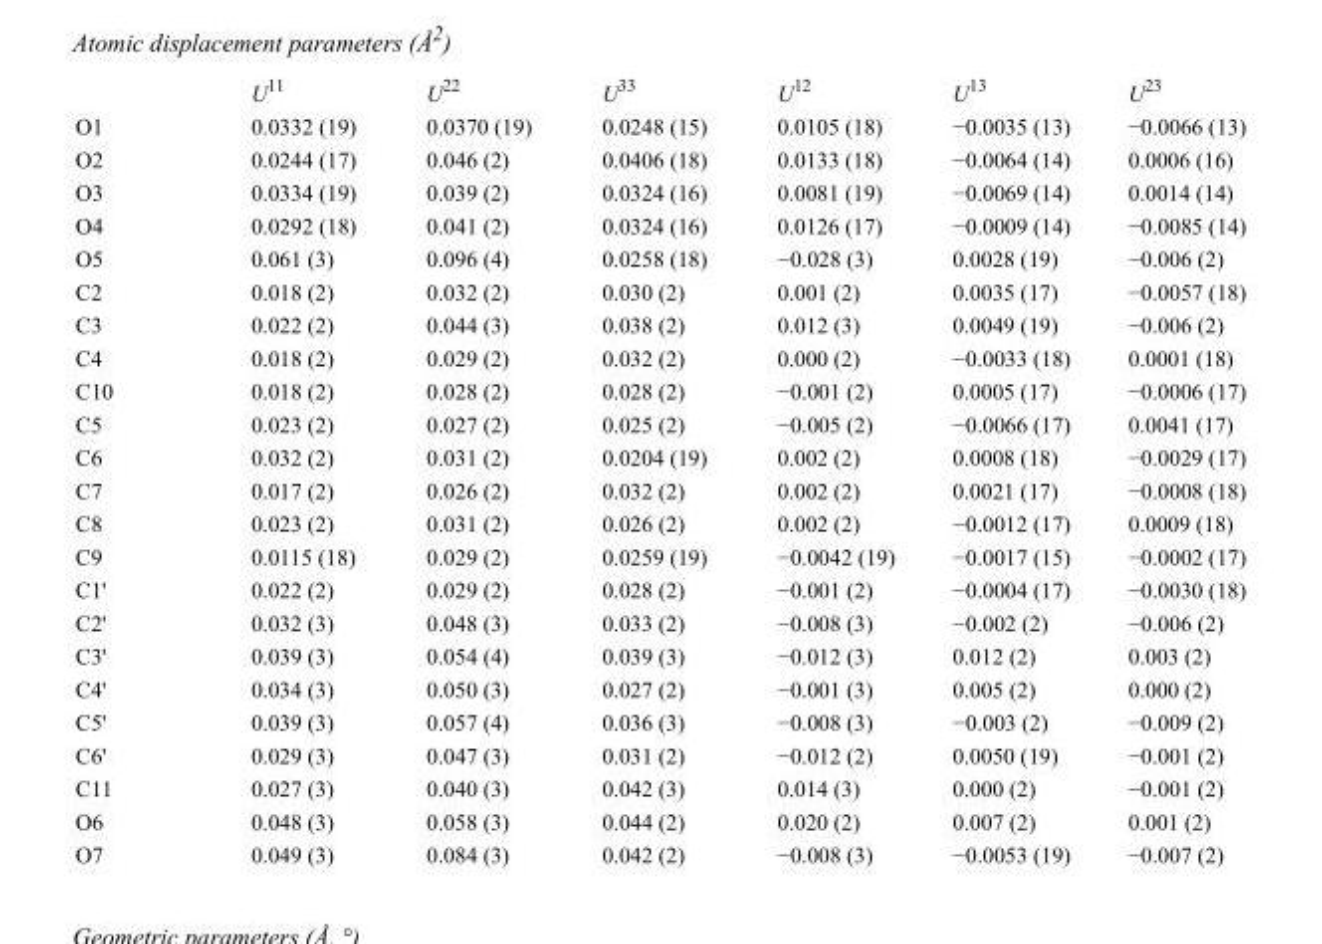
<table><thead><tr><td></td><td>U<sup>11</sup></td><td>U<sup>22</sup></td><td>U<sup>33</sup></td><td>U<sup>12</sup></td><td>U<sup>13</sup></td><td>U<sup>23</sup></td></tr></thead><tbody><tr><td>O1</td><td>0.0332 (19)</td><td>0.0370 (19)</td><td>0.0248 (15)</td><td>0.0105 (18)</td><td>−0.0035 (13)</td><td>−0.0066 (13)</td></tr><tr><td>O2</td><td>0.0244 (17)</td><td>0.046 (2)</td><td>0.0406 (18)</td><td>0.0133 (18)</td><td>−0.0064 (14)</td><td>0.0006 (16)</td></tr><tr><td>O3</td><td>0.0334 (19)</td><td>0.039 (2)</td><td>0.0324 (16)</td><td>0.0081 (19)</td><td>−0.0069 (14)</td><td>0.0014 (14)</td></tr><tr><td>O4</td><td>0.0292 (18)</td><td>0.041 (2)</td><td>0.0324 (16)</td><td>0.0126 (17)</td><td>−0.0009 (14)</td><td>−0.0085 (14)</td></tr><tr><td>O5</td><td>0.061 (3)</td><td>0.096 (4)</td><td>0.0258 (18)</td><td>−0.028 (3)</td><td>0.0028 (19)</td><td>−0.006 (2)</td></tr><tr><td>C2</td><td>0.018 (2)</td><td>0.032 (2)</td><td>0.030 (2)</td><td>0.001 (2)</td><td>0.0035 (17)</td><td>−0.0057 (18)</td></tr><tr><td>C3</td><td>0.022 (2)</td><td>0.044 (3)</td><td>0.038 (2)</td><td>0.012 (3)</td><td>0.0049 (19)</td><td>−0.006 (2)</td></tr><tr><td>C4</td><td>0.018 (2)</td><td>0.029 (2)</td><td>0.032 (2)</td><td>0.000 (2)</td><td>−0.0033 (18)</td><td>0.0001 (18)</td></tr><tr><td>C10</td><td>0.018 (2)</td><td>0.028 (2)</td><td>0.028 (2)</td><td>−0.001 (2)</td><td>0.0005 (17)</td><td>−0.0006 (17)</td></tr><tr><td>C5</td><td>0.023 (2)</td><td>0.027 (2)</td><td>0.025 (2)</td><td>−0.005 (2)</td><td>−0.0066 (17)</td><td>0.0041 (17)</td></tr><tr><td>C6</td><td>0.032 (2)</td><td>0.031 (2)</td><td>0.0204 (19)</td><td>0.002 (2)</td><td>0.0008 (18)</td><td>−0.0029 (17)</td></tr><tr><td>C7</td><td>0.017 (2)</td><td>0.026 (2)</td><td>0.032 (2)</td><td>0.002 (2)</td><td>0.0021 (17)</td><td>−0.0008 (18)</td></tr><tr><td>C8</td><td>0.023 (2)</td><td>0.031 (2)</td><td>0.026 (2)</td><td>0.002 (2)</td><td>−0.0012 (17)</td><td>0.0009 (18)</td></tr><tr><td>C9</td><td>0.0115 (18)</td><td>0.029 (2)</td><td>0.0259 (19)</td><td>−0.0042 (19)</td><td>−0.0017 (15)</td><td>−0.0002 (17)</td></tr><tr><td>C1&#x27;</td><td>0.022 (2)</td><td>0.029 (2)</td><td>0.028 (2)</td><td>−0.001 (2)</td><td>−0.0004 (17)</td><td>−0.0030 (18)</td></tr><tr><td>C2&#x27;</td><td>0.032 (3)</td><td>0.048 (3)</td><td>0.033 (2)</td><td>−0.008 (3)</td><td>−0.002 (2)</td><td>−0.006 (2)</td></tr><tr><td>C3&#x27;</td><td>0.039 (3)</td><td>0.054 (4)</td><td>0.039 (3)</td><td>−0.012 (3)</td><td>0.012 (2)</td><td>0.003 (2)</td></tr><tr><td>C4&#x27;</td><td>0.034 (3)</td><td>0.050 (3)</td><td>0.027 (2)</td><td>−0.001 (3)</td><td>0.005 (2)</td><td>0.000 (2)</td></tr><tr><td>C5&#x27;</td><td>0.039 (3)</td><td>0.057 (4)</td><td>0.036 (3)</td><td>−0.008 (3)</td><td>−0.003 (2)</td><td>−0.009 (2)</td></tr><tr><td>C6&#x27;</td><td>0.029 (3)</td><td>0.047 (3)</td><td>0.031 (2)</td><td>−0.012 (2)</td><td>0.0050 (19)</td><td>−0.001 (2)</td></tr><tr><td>C11</td><td>0.027 (3)</td><td>0.040 (3)</td><td>0.042 (3)</td><td>0.014 (3)</td><td>0.000 (2)</td><td>−0.001 (2)</td></tr><tr><td>O6</td><td>0.048 (3)</td><td>0.058 (3)</td><td>0.044 (2)</td><td>0.020 (2)</td><td>0.007 (2)</td><td>0.001 (2)</td></tr><tr><td>O7</td><td>0.049 (3)</td><td>0.084 (3)</td><td>0.042 (2)</td><td>−0.008 (3)</td><td>−0.0053 (19)</td><td>−0.007 (2)</td></tr></tbody></table>